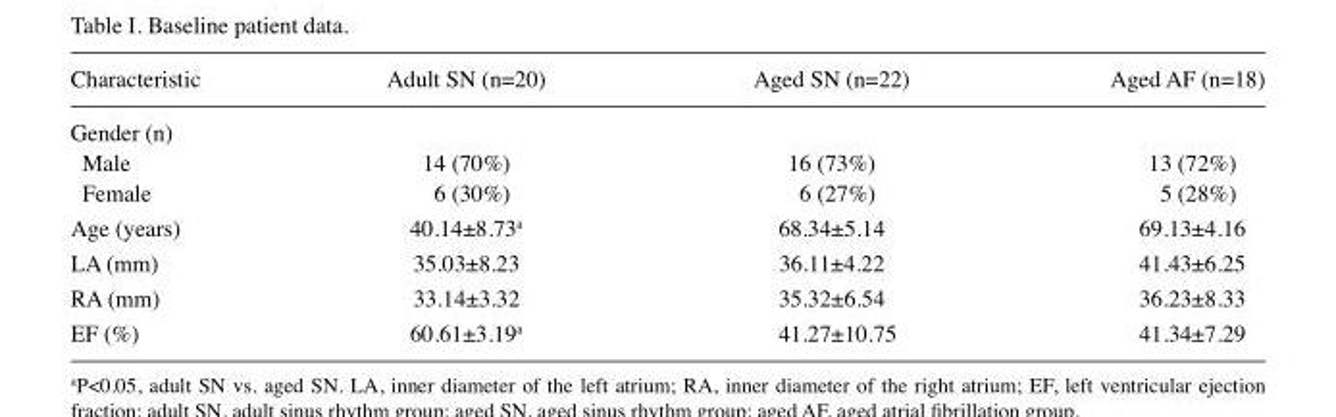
<table><thead><tr><td>Characteristic</td><td>Adult SN (n=20)</td><td>Aged SN (n=22)</td><td>Aged AF (n=18)</td></tr></thead><tbody><tr><td colspan="4">Gender (n)</td></tr><tr><td>Male</td><td>14 (70%)</td><td>16 (73%)</td><td>13 (72%)</td></tr><tr><td>Female</td><td>6 (30%)</td><td>6 (27%)</td><td>5 (28%)</td></tr><tr><td>Age (years)</td><td>40.14±8.73<sup>a</sup></td><td>68.34±5.14</td><td>69.13±4.16</td></tr><tr><td>LA (mm)</td><td>35.03±8.23</td><td>36.11±4.22</td><td>41.43±6.25</td></tr><tr><td>RA (mm)</td><td>33.14±3.32</td><td>35.32±6.54</td><td>36.23±8.33</td></tr><tr><td>EF (%)</td><td>60.61±3.19<sup>a</sup></td><td>41.27±10.75</td><td>41.34±7.29</td></tr></tbody></table>